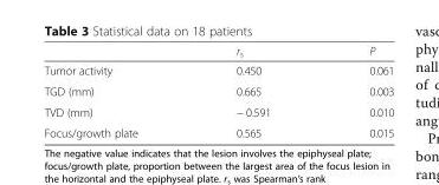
<table><thead><tr><td></td><td>r<sub>s</sub></td><td>P</td></tr></thead><tbody><tr><td>Tumor activity</td><td>0.450</td><td>0.061</td></tr><tr><td>TGD (mm)</td><td>0.665</td><td>0.003</td></tr><tr><td>TVD (mm)</td><td>− 0.591</td><td>0.010</td></tr><tr><td>Focus/growth plate</td><td>0.565</td><td>0.015</td></tr></tbody></table>